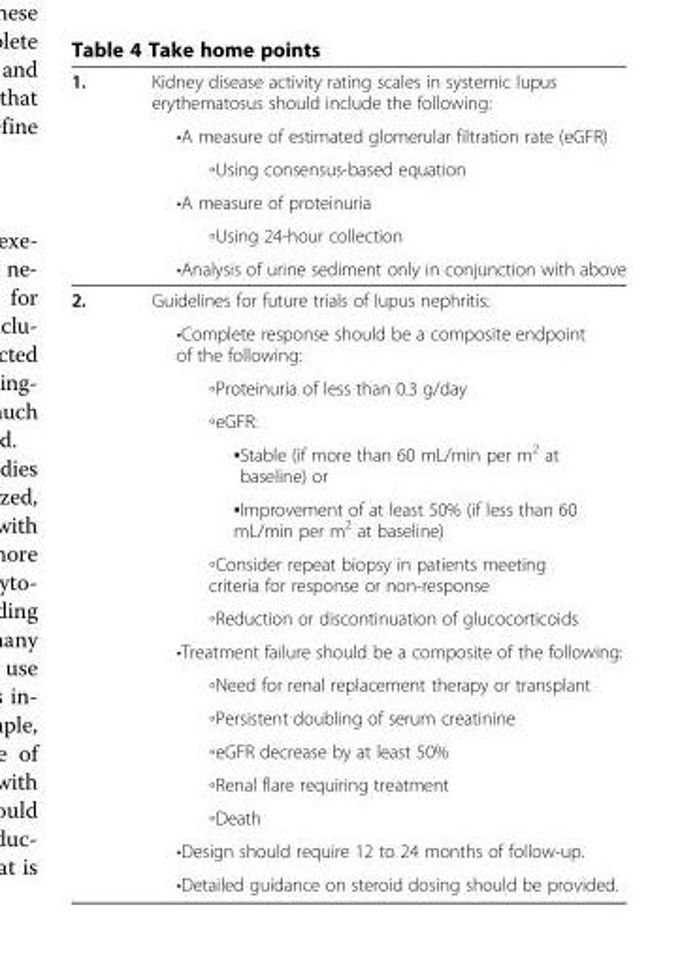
<table><tbody><tr><td rowspan="6">1.</td><td>Kidney disease activity rating scales in systemic lupus erythematosus should include the following:</td></tr><tr><td>•A measure of estimated glomerular filtration rate (eGFR)</td></tr><tr><td>◦Using consensus-based equation</td></tr><tr><td>•A measure of proteinuria</td></tr><tr><td>◦Using 24-hour collection</td></tr><tr><td>•Analysis of urine sediment only in conjunction with above</td></tr><tr><td rowspan="16">2.</td><td>Guidelines for future trials of lupus nephritis:</td></tr><tr><td>•Complete response should be a composite endpoint of the following:</td></tr><tr><td>◦Proteinuria of less than 0.3 g/day</td></tr><tr><td>◦eGFR:</td></tr><tr><td>▪Stable (if more than 60 mL/min per m<sup>2</sup> at baseline) or</td></tr><tr><td>▪Improvement of at least 50% (if less than 60 mL/min per m<sup>2</sup> at baseline)</td></tr><tr><td>◦Consider repeat biopsy in patients meeting criteria for response or non-response</td></tr><tr><td>◦Reduction or discontinuation of glucocorticoids</td></tr><tr><td>•Treatment failure should be a composite of the following:</td></tr><tr><td>◦Need for renal replacement therapy or transplant</td></tr><tr><td>◦Persistent doubling of serum creatinine</td></tr><tr><td>◦eGFR decrease by at least 50%</td></tr><tr><td>◦Renal flare requiring treatment</td></tr><tr><td>◦Death</td></tr><tr><td>•Design should require 12 to 24 months of follow-up.</td></tr><tr><td>•Detailed guidance on steroid dosing should be provided.</td></tr></tbody></table>